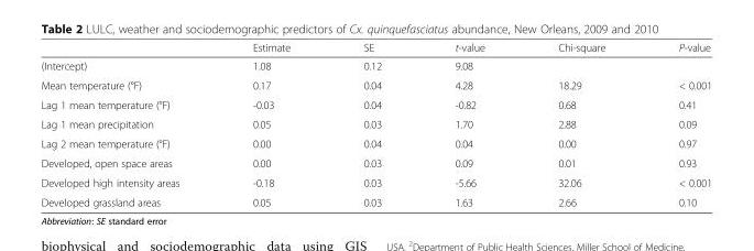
<table><thead><tr><td></td><td>Estimate</td><td>SE</td><td>t-value</td><td>Chi-square</td><td>P-value</td></tr></thead><tbody><tr><td>(Intercept)</td><td>1.08</td><td>0.12</td><td>9.08</td><td></td><td></td></tr><tr><td>Mean temperature (°F)</td><td>0.17</td><td>0.04</td><td>4.28</td><td>18.29</td><td>&lt; 0.001</td></tr><tr><td>Lag 1 mean temperature (°F)</td><td>-0.03</td><td>0.04</td><td>-0.82</td><td>0.68</td><td>0.41</td></tr><tr><td>Lag 1 mean precipitation</td><td>0.05</td><td>0.03</td><td>1.70</td><td>2.88</td><td>0.09</td></tr><tr><td>Lag 2 mean temperature (°F)</td><td>0.00</td><td>0.04</td><td>0.04</td><td>0.00</td><td>0.97</td></tr><tr><td>Developed, open space areas</td><td>0.00</td><td>0.03</td><td>0.09</td><td>0.01</td><td>0.93</td></tr><tr><td>Developed high intensity areas</td><td>-0.18</td><td>0.03</td><td>-5.66</td><td>32.06</td><td>&lt; 0.001</td></tr><tr><td>Developed grassland areas</td><td>0.05</td><td>0.03</td><td>1.63</td><td>2.66</td><td>0.10</td></tr></tbody></table>